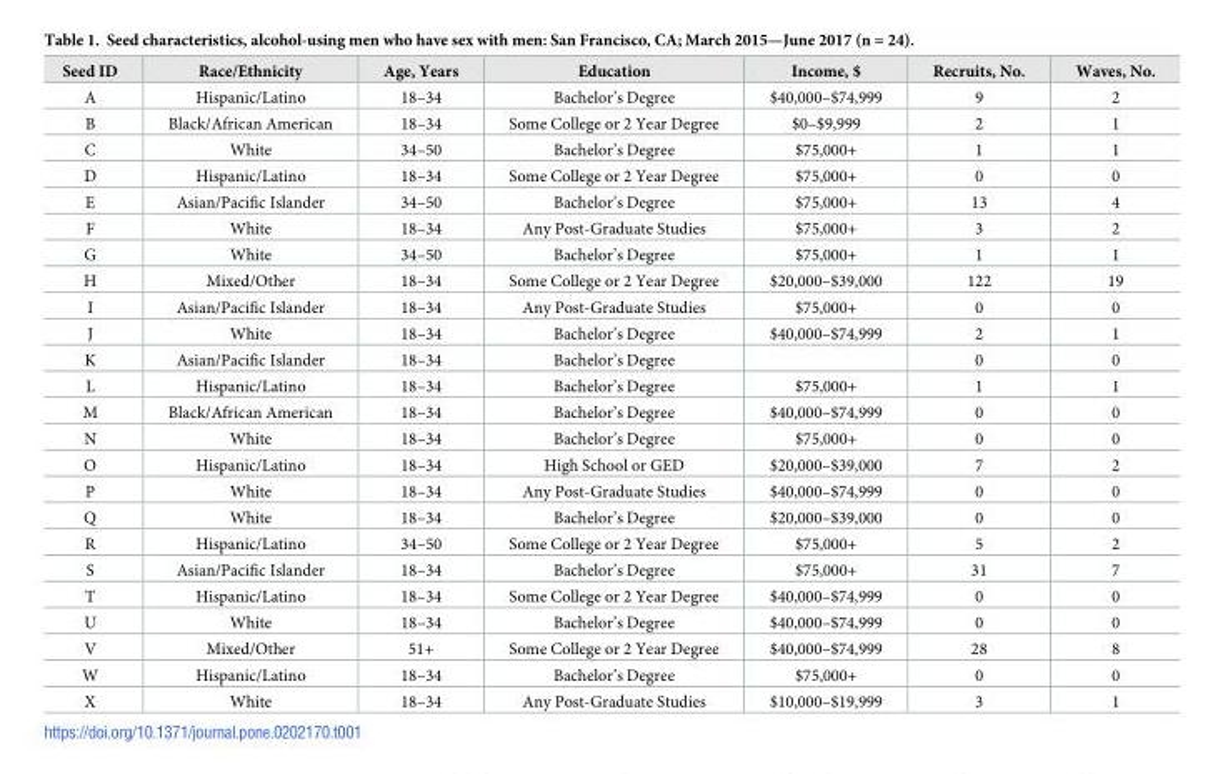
<table><thead><tr><td>Seed ID</td><td>Race/Ethnicity</td><td>Age, Years</td><td>Education</td><td>Income, $</td><td>Recruits, No.</td><td>Waves, No.</td></tr></thead><tbody><tr><td>A</td><td>Hispanic/Latino</td><td>18–34</td><td>Bachelor’s Degree</td><td>$40,000–$74,999</td><td>9</td><td>2</td></tr><tr><td>B</td><td>Black/African American</td><td>18–34</td><td>Some College or 2 Year Degree</td><td>$0–$9,999</td><td>2</td><td>1</td></tr><tr><td>C</td><td>White</td><td>34–50</td><td>Bachelor’s Degree</td><td>$75,000+</td><td>1</td><td>1</td></tr><tr><td>D</td><td>Hispanic/Latino</td><td>18–34</td><td>Some College or 2 Year Degree</td><td>$75,000+</td><td>0</td><td>0</td></tr><tr><td>E</td><td>Asian/Pacific Islander</td><td>34–50</td><td>Bachelor’s Degree</td><td>$75,000+</td><td>13</td><td>4</td></tr><tr><td>F</td><td>White</td><td>18–34</td><td>Any Post-Graduate Studies</td><td>$75,000+</td><td>3</td><td>2</td></tr><tr><td>G</td><td>White</td><td>34–50</td><td>Bachelor’s Degree</td><td>$75,000+</td><td>1</td><td>1</td></tr><tr><td>H</td><td>Mixed/Other</td><td>18–34</td><td>Some College or 2 Year Degree</td><td>$20,000–$39,000</td><td>122</td><td>19</td></tr><tr><td>I</td><td>Asian/Pacific Islander</td><td>18–34</td><td>Any Post-Graduate Studies</td><td>$75,000+</td><td>0</td><td>0</td></tr><tr><td>J</td><td>White</td><td>18–34</td><td>Bachelor’s Degree</td><td>$40,000–$74,999</td><td>2</td><td>1</td></tr><tr><td>K</td><td>Asian/Pacific Islander</td><td>18–34</td><td>Bachelor’s Degree</td><td></td><td>0</td><td>0</td></tr><tr><td>L</td><td>Hispanic/Latino</td><td>18–34</td><td>Bachelor’s Degree</td><td>$75,000+</td><td>1</td><td>1</td></tr><tr><td>M</td><td>Black/African American</td><td>18–34</td><td>Bachelor’s Degree</td><td>$40,000–$74,999</td><td>0</td><td>0</td></tr><tr><td>N</td><td>White</td><td>18–34</td><td>Bachelor’s Degree</td><td>$75,000+</td><td>0</td><td>0</td></tr><tr><td>O</td><td>Hispanic/Latino</td><td>18–34</td><td>High School or GED</td><td>$20,000–$39,000</td><td>7</td><td>2</td></tr><tr><td>P</td><td>White</td><td>18–34</td><td>Any Post-Graduate Studies</td><td>$40,000–$74,999</td><td>0</td><td>0</td></tr><tr><td>Q</td><td>White</td><td>18–34</td><td>Bachelor’s Degree</td><td>$20,000–$39,000</td><td>0</td><td>0</td></tr><tr><td>R</td><td>Hispanic/Latino</td><td>34–50</td><td>Some College or 2 Year Degree</td><td>$75,000+</td><td>5</td><td>2</td></tr><tr><td>S</td><td>Asian/Pacific Islander</td><td>18–34</td><td>Bachelor’s Degree</td><td>$75,000+</td><td>31</td><td>7</td></tr><tr><td>T</td><td>Hispanic/Latino</td><td>18–34</td><td>Some College or 2 Year Degree</td><td>$40,000–$74,999</td><td>0</td><td>0</td></tr><tr><td>U</td><td>White</td><td>18–34</td><td>Bachelor’s Degree</td><td>$40,000–$74,999</td><td>0</td><td>0</td></tr><tr><td>V</td><td>Mixed/Other</td><td>51+</td><td>Some College or 2 Year Degree</td><td>$40,000–$74,999</td><td>28</td><td>8</td></tr><tr><td>W</td><td>Hispanic/Latino</td><td>18–34</td><td>Bachelor’s Degree</td><td>$75,000+</td><td>0</td><td>0</td></tr><tr><td>X</td><td>White</td><td>18–34</td><td>Any Post-Graduate Studies</td><td>$10,000–$19,999</td><td>3</td><td>1</td></tr></tbody></table>